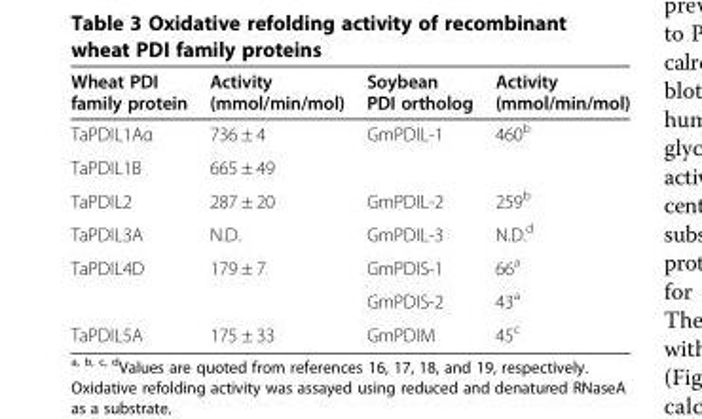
<table><thead><tr><td>Wheat PDI family protein</td><td>Activity (mmol/min/mol)</td><td>Soybean PDI ortholog</td><td>Activity (mmol/min/mol)</td></tr></thead><tbody><tr><td>TaPDIL1Aα</td><td>736 ± 4</td><td>GmPDIL-1</td><td>460<sup>b</sup></td></tr><tr><td>TaPDIL1B</td><td>665 ± 49</td><td></td><td></td></tr><tr><td>TaPDIL2</td><td>287 ± 20</td><td>GmPDIL-2</td><td>259<sup>b</sup></td></tr><tr><td>TaPDIL3A</td><td>N.D.</td><td>GmPDIL-3</td><td>N.D.<sup>d</sup></td></tr><tr><td rowspan="2">TaPDIL4D</td><td>179 ± 7</td><td>GmPDIS-1</td><td>66<sup>a</sup></td></tr><tr><td></td><td>GmPDIS-2</td><td>43<sup>a</sup></td></tr><tr><td>TaPDIL5A</td><td>175 ± 33</td><td>GmPDIM</td><td>45<sup>c</sup></td></tr></tbody></table>